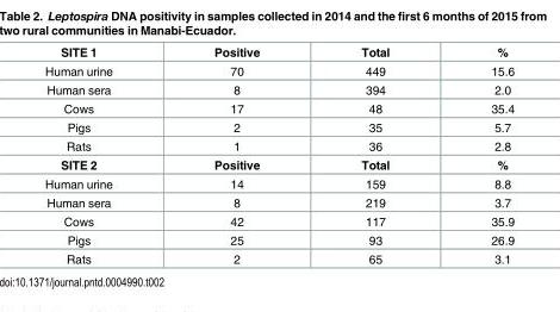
<table><tbody><tr><td>SITE 1</td><td>Positive</td><td>Total</td><td>%</td></tr><tr><td>Human urine</td><td>70</td><td>449</td><td>15.6</td></tr><tr><td>Human sera</td><td>8</td><td>394</td><td>2.0</td></tr><tr><td>Cows</td><td>17</td><td>48</td><td>35.4</td></tr><tr><td>Pigs</td><td>2</td><td>35</td><td>5.7</td></tr><tr><td>Rats</td><td>1</td><td>36</td><td>2.8</td></tr><tr><td>SITE 2</td><td>Positive</td><td>Total</td><td>%</td></tr><tr><td>Human urine</td><td>14</td><td>159</td><td>8.8</td></tr><tr><td>Human sera</td><td>8</td><td>219</td><td>3.7</td></tr><tr><td>Cows</td><td>42</td><td>117</td><td>35.9</td></tr><tr><td>Pigs</td><td>25</td><td>93</td><td>26.9</td></tr><tr><td>Rats</td><td>2</td><td>65</td><td>3.1</td></tr></tbody></table>